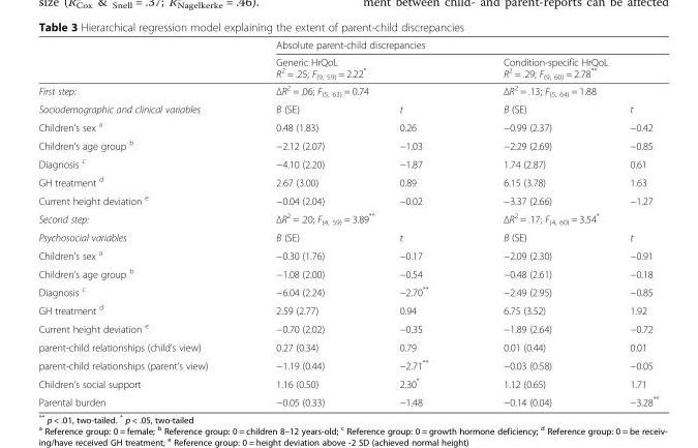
<table><thead><tr><td rowspan="4">First step: Sociodemographic and clinical variables</td><td colspan="4">Absolute parent-child discrepancies</td></tr><tr><td rowspan="2" colspan="2">Generic HrQoL R2 = .25; F(9, 59) = 2.22* ΔR2 = .06; F(5, 63) = 0.74</td><td rowspan="2" colspan="2">Condition-specific HrQoL R2 = .29; F(9, 60) = 2.78** ΔR2 = .13; F(5, 64) = 1.88</td></tr><tr></tr><tr><td>B (SE)</td><td>t</td><td>B (SE)</td><td>t</td></tr></thead><tbody><tr><td>Children’s sex <sup>a</sup></td><td>0.48 (1.83)</td><td>0.26</td><td>−0.99 (2.37)</td><td>−0.42</td></tr><tr><td>Children’s age group <sup>b</sup></td><td>−2.12 (2.07)</td><td>−1.03</td><td>−2.29 (2.69)</td><td>−0.85</td></tr><tr><td>Diagnosis <sup>c</sup></td><td>−4.10 (2.20)</td><td>−1.87</td><td>1.74 (2.87)</td><td>0.61</td></tr><tr><td>GH treatment <sup>d</sup></td><td>2.67 (3.00)</td><td>0.89</td><td>6.15 (3.78)</td><td>1.63</td></tr><tr><td>Current height deviation <sup>e</sup></td><td>−0.04 (2.04)</td><td>−0.02</td><td>−3.37 (2.66)</td><td>−1.27</td></tr><tr><td>Second step:</td><td colspan="2">ΔR2 = .20; F(4, 59) = 3.89**</td><td colspan="2">ΔR2 = .17; F(4, 60) = 3.54*</td></tr><tr><td>Psychosocial variables</td><td>B (SE)</td><td>t</td><td>B (SE)</td><td>t</td></tr><tr><td>Children’s sex <sup>a</sup></td><td>−0.30 (1.76)</td><td>−0.17</td><td>−2.09 (2.30)</td><td>−0.91</td></tr><tr><td>Children’s age group <sup>b</sup></td><td>−1.08 (2.00)</td><td>−0.54</td><td>−0.48 (2.61)</td><td>−0.18</td></tr><tr><td>Diagnosis <sup>c</sup></td><td>−6.04 (2.24)</td><td>−2.70**</td><td>−2.49 (2.95)</td><td>−0.85</td></tr><tr><td>GH treatment <sup>d</sup></td><td>2.59 (2.77)</td><td>0.94</td><td>6.75 (3.52)</td><td>1.92</td></tr><tr><td>Current height deviation <sup>e</sup></td><td>−0.70 (2.02)</td><td>−0.35</td><td>−1.89 (2.64)</td><td>−0.72</td></tr><tr><td>parent-child relationships (child’s view)</td><td>0.27 (0.34)</td><td>0.79</td><td>0.01 (0.44)</td><td>0.01</td></tr><tr><td>parent-child relationships (parent’s view)</td><td>−1.19 (0.44)</td><td>−2.71**</td><td>−0.03 (0.58)</td><td>−0.05</td></tr><tr><td>Children’s social support</td><td>1.16 (0.50)</td><td>2.30*</td><td>1.12 (0.65)</td><td>1.71</td></tr><tr><td>Parental burden</td><td>−0.05 (0.33)</td><td>−1.48</td><td>−0.14 (0.04)</td><td>−3.28**</td></tr></tbody></table>